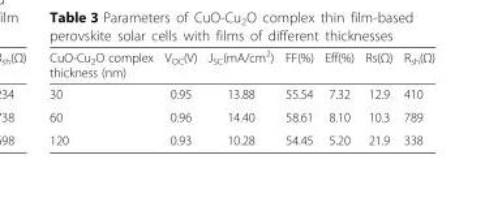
<table><thead><tr><td>CuO-Cu<sub>2</sub>O complex thickness (nm)</td><td>V<sub>OC</sub>(V)</td><td>J<sub>SC</sub>(mA/cm<sup>2</sup>)</td><td>FF(%)</td><td>Eff(%)</td><td>Rs(Ω)</td><td>R<sub>sh</sub>(Ω)</td></tr></thead><tbody><tr><td>30</td><td>0.95</td><td>13.88</td><td>55.54</td><td>7.32</td><td>12.9</td><td>410</td></tr><tr><td>60</td><td>0.96</td><td>14.40</td><td>58.61</td><td>8.10</td><td>10.3</td><td>789</td></tr><tr><td>120</td><td>0.93</td><td>10.28</td><td>54.45</td><td>5.20</td><td>21.9</td><td>338</td></tr></tbody></table>